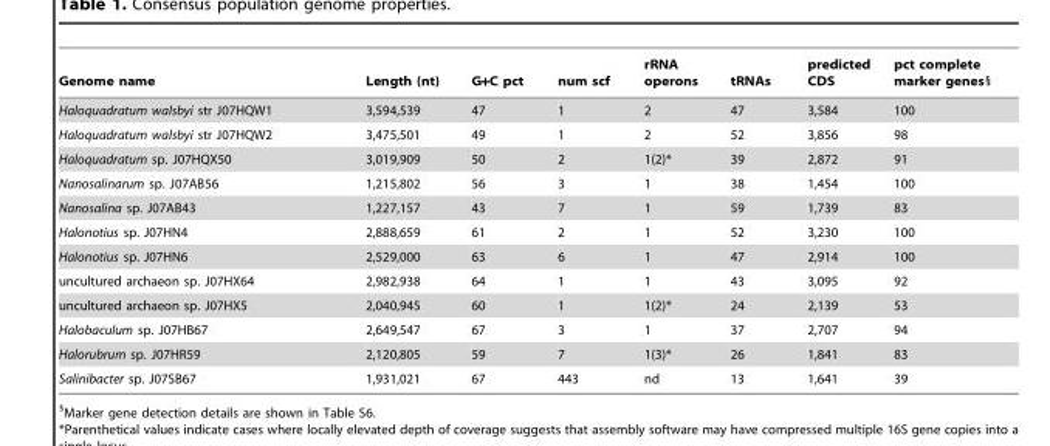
<table><thead><tr><td>Genome name</td><td>Length (nt)</td><td>G+C pct</td><td>num scf</td><td>rRNA operons</td><td>tRNAs</td><td>predicted CDS</td><td>pct complete marker genes§</td></tr></thead><tbody><tr><td>Haloquadratum walsbyi str J07HQW1</td><td>3,594,539</td><td>47</td><td>1</td><td>2</td><td>47</td><td>3,584</td><td>100</td></tr><tr><td>Haloquadratum walsbyi str J07HQW2</td><td>3,475,501</td><td>49</td><td>1</td><td>2</td><td>52</td><td>3,856</td><td>98</td></tr><tr><td>Haloquadratum sp. J07HQX50</td><td>3,019,909</td><td>50</td><td>2</td><td>1(2)*</td><td>39</td><td>2,872</td><td>91</td></tr><tr><td>Nanosalinarum sp. J07AB56</td><td>1,215,802</td><td>56</td><td>3</td><td>1</td><td>38</td><td>1,454</td><td>100</td></tr><tr><td>Nanosalina sp. J07AB43</td><td>1,227,157</td><td>43</td><td>7</td><td>1</td><td>59</td><td>1,739</td><td>83</td></tr><tr><td>Halonotius sp. J07HN4</td><td>2,888,659</td><td>61</td><td>2</td><td>1</td><td>52</td><td>3,230</td><td>100</td></tr><tr><td>Halonotius sp. J07HN6</td><td>2,529,000</td><td>63</td><td>6</td><td>1</td><td>47</td><td>2,914</td><td>100</td></tr><tr><td>uncultured archaeon sp. J07HX64</td><td>2,982,938</td><td>64</td><td>1</td><td>1</td><td>43</td><td>3,095</td><td>92</td></tr><tr><td>uncultured archaeon sp. J07HX5</td><td>2,040,945</td><td>60</td><td>1</td><td>1(2)*</td><td>24</td><td>2,139</td><td>53</td></tr><tr><td>Halobaculum sp. J07HB67</td><td>2,649,547</td><td>67</td><td>3</td><td>1</td><td>37</td><td>2,707</td><td>94</td></tr><tr><td>Halorubrum sp. J07HR59</td><td>2,120,805</td><td>59</td><td>7</td><td>1(3)*</td><td>26</td><td>1,841</td><td>83</td></tr><tr><td>Salinibacter sp. J07SB67</td><td>1,931,021</td><td>67</td><td>443</td><td>nd</td><td>13</td><td>1,641</td><td>39</td></tr></tbody></table>